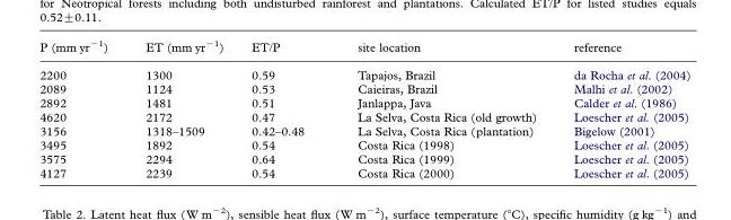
<table><thead><tr><td>P (mm yr−1)</td><td>ET (mm yr−1)</td><td>ET/P</td><td>site location</td><td>reference</td></tr></thead><tbody><tr><td>2200</td><td>1300</td><td>0.59</td><td>Tapajos, Brazil</td><td>da Rocha et al. (2004)</td></tr><tr><td>2089</td><td>1124</td><td>0.53</td><td>Caieiras, Brazil</td><td>Malhi et al. (2002)</td></tr><tr><td>2892</td><td>1481</td><td>0.51</td><td>Janlappa, Java</td><td>Calder et al. (1986)</td></tr><tr><td>4620</td><td>2172</td><td>0.47</td><td>La Selva, Costa Rica (old growth)</td><td>Loescher et al. (2005)</td></tr><tr><td>3156</td><td>1318–1509</td><td>0.42–0.48</td><td>La Selva, Costa Rica (plantation)</td><td>Bigelow (2001)</td></tr><tr><td>3495</td><td>1892</td><td>0.54</td><td>Costa Rica (1998)</td><td>Loescher et al. (2005)</td></tr><tr><td>3575</td><td>2294</td><td>0.64</td><td>Costa Rica (1999)</td><td>Loescher et al. (2005)</td></tr><tr><td>4127</td><td>2239</td><td>0.54</td><td>Costa Rica (2000)</td><td>Loescher et al. (2005)</td></tr></tbody></table>